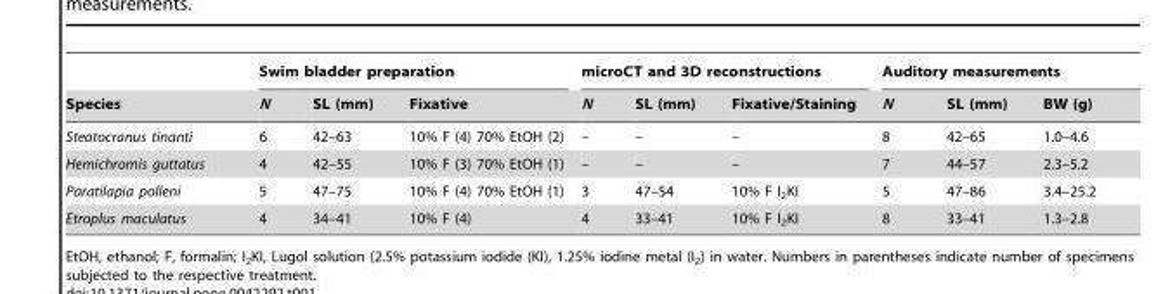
<table><thead><tr><td rowspan="2">Species</td><td colspan="3">Swim bladder preparation</td><td colspan="3">microCT and 3D reconstructions</td><td colspan="3">Auditory measurements</td></tr><tr><td>N</td><td>SL (mm)</td><td>Fixative</td><td>N</td><td>SL (mm)</td><td>Fixative/Staining</td><td>N</td><td>SL (mm)</td><td>BW (g)</td></tr></thead><tbody><tr><td>Steatocranus tinanti</td><td>6</td><td>42–63</td><td>10% F (4) 70% EtOH (2)</td><td>–</td><td>–</td><td>–</td><td>8</td><td>42–65</td><td>1.0–4.6</td></tr><tr><td>Hemichromis guttatus</td><td>4</td><td>42–55</td><td>10% F (3) 70% EtOH (1)</td><td>–</td><td>–</td><td>–</td><td>7</td><td>44–57</td><td>2.3–5.2</td></tr><tr><td>Paratilapia polleni</td><td>5</td><td>47–75</td><td>10% F (4) 70% EtOH (1)</td><td>3</td><td>47–54</td><td>10% F I<sub>2</sub>KI</td><td>5</td><td>47–86</td><td>3.4–25.2</td></tr><tr><td>Etroplus maculatus</td><td>4</td><td>34–41</td><td>10% F (4)</td><td>4</td><td>33–41</td><td>10% F I<sub>2</sub>KI</td><td>8</td><td>33–41</td><td>1.3–2.8</td></tr></tbody></table>